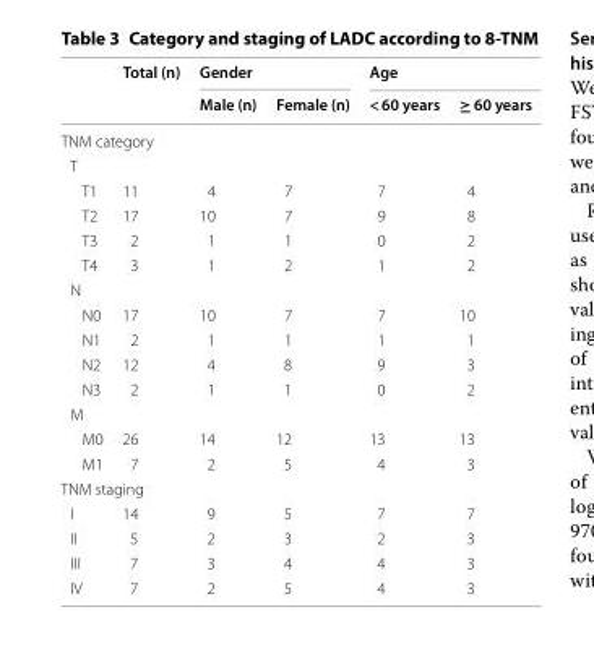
<table><thead><tr><td rowspan="2"></td><td rowspan="2">Total (n)</td><td colspan="2">Gender</td><td colspan="2">Age</td></tr><tr><td>Male (n)</td><td>Female (n)</td><td>&lt; 60 years</td><td>≥ 60 years</td></tr></thead><tbody><tr><td colspan="6">TNM category</td></tr><tr><td colspan="6">T</td></tr><tr><td>T1</td><td>11</td><td>4</td><td>7</td><td>7</td><td>4</td></tr><tr><td>T2</td><td>17</td><td>10</td><td>7</td><td>9</td><td>8</td></tr><tr><td>T3</td><td>2</td><td>1</td><td>1</td><td>0</td><td>2</td></tr><tr><td>T4</td><td>3</td><td>1</td><td>2</td><td>1</td><td>2</td></tr><tr><td colspan="6">N</td></tr><tr><td>N0</td><td>17</td><td>10</td><td>7</td><td>7</td><td>10</td></tr><tr><td>N1</td><td>2</td><td>1</td><td>1</td><td>1</td><td>1</td></tr><tr><td>N2</td><td>12</td><td>4</td><td>8</td><td>9</td><td>3</td></tr><tr><td>N3</td><td>2</td><td>1</td><td>1</td><td>0</td><td>2</td></tr><tr><td colspan="6">M</td></tr><tr><td>M0</td><td>26</td><td>14</td><td>12</td><td>13</td><td>13</td></tr><tr><td>M1</td><td>7</td><td>2</td><td>5</td><td>4</td><td>3</td></tr><tr><td colspan="6">TNM staging</td></tr><tr><td>I</td><td>14</td><td>9</td><td>5</td><td>7</td><td>7</td></tr><tr><td>II</td><td>5</td><td>2</td><td>3</td><td>2</td><td>3</td></tr><tr><td>III</td><td>7</td><td>3</td><td>4</td><td>4</td><td>3</td></tr><tr><td>IV</td><td>7</td><td>2</td><td>5</td><td>4</td><td>3</td></tr></tbody></table>